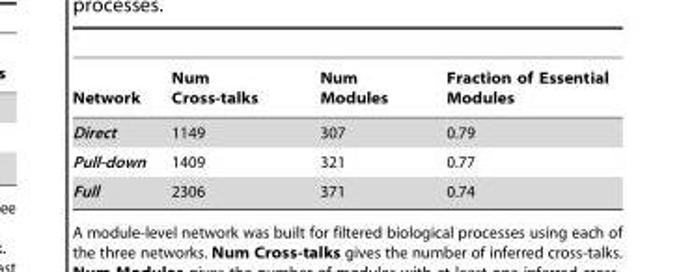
<table><thead><tr><td>Network</td><td>Num Cross-talks</td><td>Num Modules</td><td>Fraction of Essential Modules</td></tr></thead><tbody><tr><td>Direct</td><td>1149</td><td>307</td><td>0.79</td></tr><tr><td>Pull-down</td><td>1409</td><td>321</td><td>0.77</td></tr><tr><td>Full</td><td>2306</td><td>371</td><td>0.74</td></tr></tbody></table>